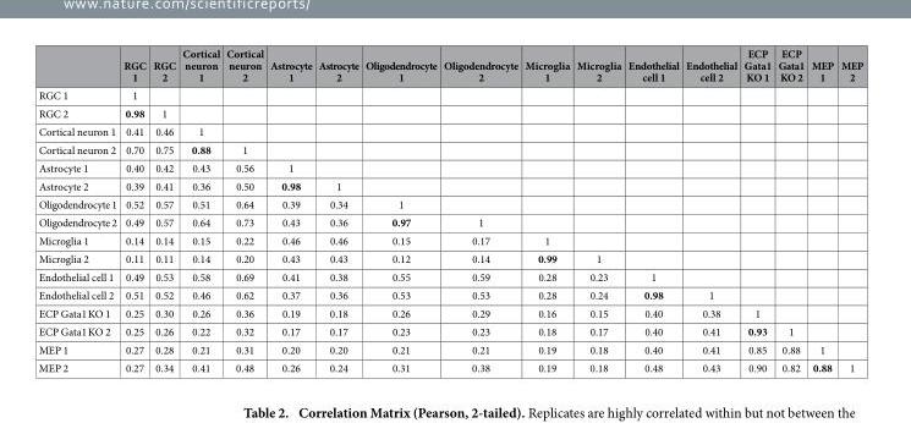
<table><thead><tr><td></td><td>RGC 1</td><td>RGC 2</td><td>Cortical neuron 1</td><td>Cortical neuron 2</td><td>Astrocyte 1</td><td>Astrocyte 2</td><td>Oligodendrocyte 1</td><td>Oligodendrocyte 2</td><td>Microglia 1</td><td>Microglia 2</td><td>Endothelial cell 1</td><td>Endothelial cell 2</td><td>ECP Gata1 KO 1</td><td>ECP Gata1 KO 2</td><td>MEP 1</td><td>MEP 2</td></tr></thead><tbody><tr><td>RGC 1</td><td>1</td><td></td><td></td><td></td><td></td><td></td><td></td><td></td><td></td><td></td><td></td><td></td><td></td><td></td><td></td><td></td></tr><tr><td>RGC 2</td><td>0.98</td><td>1</td><td></td><td></td><td></td><td></td><td></td><td></td><td></td><td></td><td></td><td></td><td></td><td></td><td></td><td></td></tr><tr><td>Cortical neuron 1</td><td>0.41</td><td>0.46</td><td>1</td><td></td><td></td><td></td><td></td><td></td><td></td><td></td><td></td><td></td><td></td><td></td><td></td><td></td></tr><tr><td>Cortical neuron 2</td><td>0.70</td><td>0.75</td><td>0.88</td><td>1</td><td></td><td></td><td></td><td></td><td></td><td></td><td></td><td></td><td></td><td></td><td></td><td></td></tr><tr><td>Astrocyte 1</td><td>0.40</td><td>0.42</td><td>0.43</td><td>0.56</td><td>1</td><td></td><td></td><td></td><td></td><td></td><td></td><td></td><td></td><td></td><td></td><td></td></tr><tr><td>Astrocyte 2</td><td>0.39</td><td>0.41</td><td>0.36</td><td>0.50</td><td>0.98</td><td>1</td><td></td><td></td><td></td><td></td><td></td><td></td><td></td><td></td><td></td><td></td></tr><tr><td>Oligodendrocyte 1</td><td>0.52</td><td>0.57</td><td>0.51</td><td>0.64</td><td>0.39</td><td>0.34</td><td>1</td><td></td><td></td><td></td><td></td><td></td><td></td><td></td><td></td><td></td></tr><tr><td>Oligodendrocyte 2</td><td>0.49</td><td>0.57</td><td>0.64</td><td>0.73</td><td>0.43</td><td>0.36</td><td>0.97</td><td>1</td><td></td><td></td><td></td><td></td><td></td><td></td><td></td><td></td></tr><tr><td>Microglia 1</td><td>0.14</td><td>0.14</td><td>0.15</td><td>0.22</td><td>0.46</td><td>0.46</td><td>0.15</td><td>0.17</td><td>1</td><td></td><td></td><td></td><td></td><td></td><td></td><td></td></tr><tr><td>Microglia 2</td><td>0.11</td><td>0.11</td><td>0.14</td><td>0.20</td><td>0.43</td><td>0.43</td><td>0.12</td><td>0.14</td><td>0.99</td><td>1</td><td></td><td></td><td></td><td></td><td></td><td></td></tr><tr><td>Endothelial cell 1</td><td>0.49</td><td>0.53</td><td>0.58</td><td>0.69</td><td>0.41</td><td>0.38</td><td>0.55</td><td>0.59</td><td>0.28</td><td>0.23</td><td>1</td><td></td><td></td><td></td><td></td><td></td></tr><tr><td>Endothelial cell 2</td><td>0.51</td><td>0.52</td><td>0.46</td><td>0.62</td><td>0.37</td><td>0.36</td><td>0.53</td><td>0.53</td><td>0.28</td><td>0.24</td><td>0.98</td><td>1</td><td></td><td></td><td></td><td></td></tr><tr><td>ECP Gata1 KO 1</td><td>0.25</td><td>0.30</td><td>0.26</td><td>0.36</td><td>0.19</td><td>0.18</td><td>0.26</td><td>0.29</td><td>0.16</td><td>0.15</td><td>0.40</td><td>0.38</td><td>1</td><td></td><td></td><td></td></tr><tr><td>ECP Gata1 KO 2</td><td>0.25</td><td>0.26</td><td>0.22</td><td>0.32</td><td>0.17</td><td>0.17</td><td>0.23</td><td>0.23</td><td>0.18</td><td>0.17</td><td>0.40</td><td>0.41</td><td>0.93</td><td>1</td><td></td><td></td></tr><tr><td>MEP 1</td><td>0.27</td><td>0.28</td><td>0.21</td><td>0.31</td><td>0.20</td><td>0.20</td><td>0.21</td><td>0.21</td><td>0.19</td><td>0.18</td><td>0.40</td><td>0.41</td><td>0.85</td><td>0.88</td><td>1</td><td></td></tr><tr><td>MEP 2</td><td>0.27</td><td>0.34</td><td>0.41</td><td>0.48</td><td>0.26</td><td>0.24</td><td>0.31</td><td>0.38</td><td>0.19</td><td>0.18</td><td>0.48</td><td>0.43</td><td>0.90</td><td>0.82</td><td>0.88</td><td>1</td></tr></tbody></table>